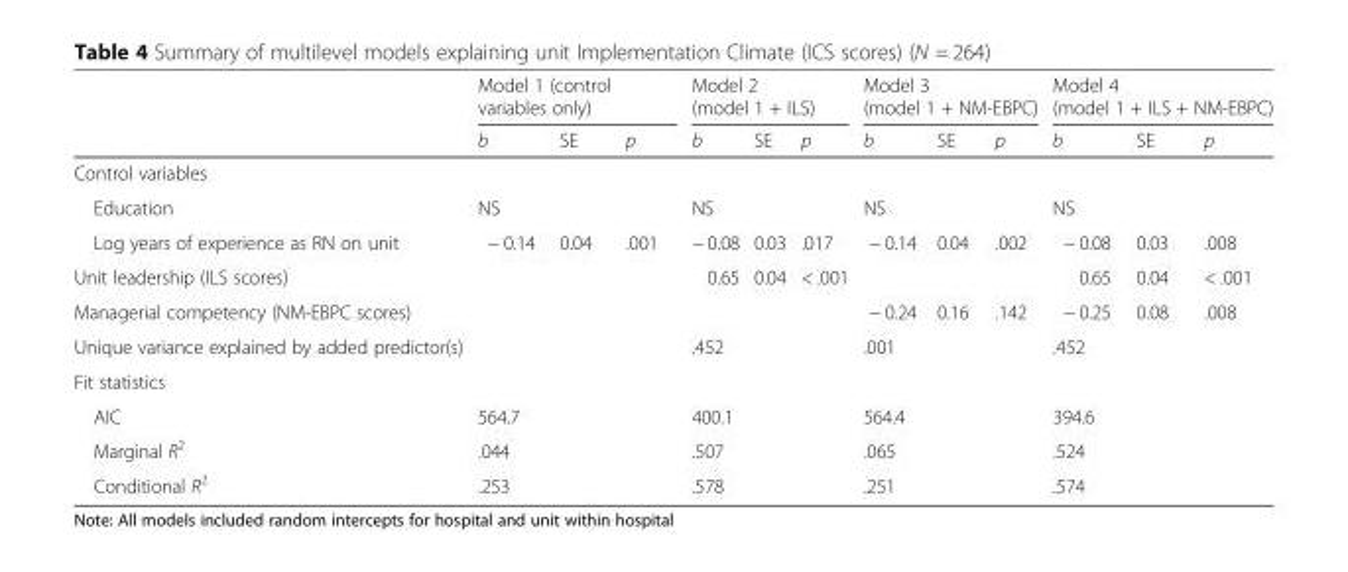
<table><thead><tr><td rowspan="2"></td><td colspan="3">Model 1 (control variables only)</td><td colspan="3">Model 2 (model 1 + ILS)</td><td colspan="3">Model 3 (model 1 + NM-EBPC)</td><td colspan="3">Model 4 (model 1 + ILS + NM-EBPC)</td></tr><tr><td>b</td><td>SE</td><td>p</td><td>b</td><td>SE</td><td>p</td><td>b</td><td>SE</td><td>p</td><td>b</td><td>SE</td><td>p</td></tr></thead><tbody><tr><td colspan="13">Control variables</td></tr><tr><td>Education</td><td colspan="3">NS</td><td colspan="3">NS</td><td colspan="3">NS</td><td colspan="3">NS</td></tr><tr><td>Log years of experience as RN on unit</td><td>− 0.14</td><td>0.04</td><td>.001</td><td>− 0.08</td><td>0.03</td><td>.017</td><td>− 0.14</td><td>0.04</td><td>.002</td><td>− 0.08</td><td>0.03</td><td>.008</td></tr><tr><td>Unit leadership (ILS scores)</td><td colspan="3"></td><td>0.65</td><td>0.04</td><td>&lt; .001</td><td colspan="3"></td><td>0.65</td><td>0.04</td><td>&lt; .001</td></tr><tr><td>Managerial competency (NM-EBPC scores)</td><td colspan="3"></td><td colspan="3"></td><td>− 0.24</td><td>0.16</td><td>.142</td><td>− 0.25</td><td>0.08</td><td>.008</td></tr><tr><td>Unique variance explained by added predictor(s)</td><td colspan="3"></td><td colspan="3">.452</td><td colspan="3">.001</td><td colspan="3">.452</td></tr><tr><td colspan="13">Fit statistics</td></tr><tr><td>AIC</td><td colspan="3">564.7</td><td colspan="3">400.1</td><td colspan="3">564.4</td><td colspan="3">394.6</td></tr><tr><td>Marginal R<sup>2</sup></td><td colspan="3">.044</td><td colspan="3">.507</td><td colspan="3">.065</td><td colspan="3">.524</td></tr><tr><td>Conditional R<sup>2</sup></td><td colspan="3">.253</td><td colspan="3">.578</td><td colspan="3">.251</td><td colspan="3">.574</td></tr></tbody></table>